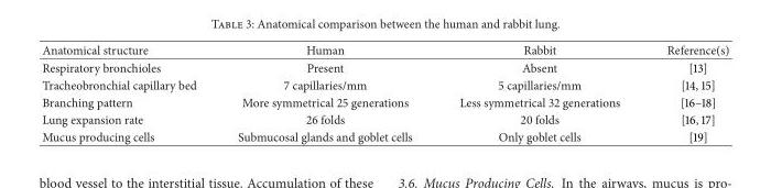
<table><thead><tr><td>Anatomical structure</td><td>Human</td><td>Rabbit</td><td>Reference(s)</td></tr></thead><tbody><tr><td>Respiratory bronchioles</td><td>Present</td><td>Absent</td><td>[13]</td></tr><tr><td>Tracheobronchial capillary bed</td><td>7 capillaries/mm</td><td>5 capillaries/mm</td><td>[14, 15]</td></tr><tr><td>Branching pattern</td><td>More symmetrical 25 generations</td><td>Less symmetrical 32 generations</td><td>[16–18]</td></tr><tr><td>Lung expansion rate</td><td>26 folds</td><td>20 folds</td><td>[16, 17]</td></tr><tr><td>Mucus producing cells</td><td>Submucosal glands and goblet cells</td><td>Only goblet cells</td><td>[19]</td></tr></tbody></table>